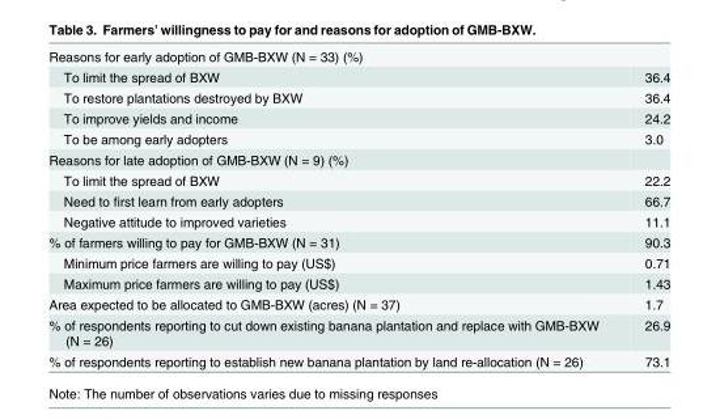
<table><tbody><tr><td colspan="2">Reasons for early adoption of GMB-BXW (N = 33) (%)</td></tr><tr><td>To limit the spread of BXW</td><td>36.4</td></tr><tr><td>To restore plantations destroyed by BXW</td><td>36.4</td></tr><tr><td>To improve yields and income</td><td>24.2</td></tr><tr><td>To be among early adopters</td><td>3.0</td></tr><tr><td colspan="2">Reasons for late adoption of GMB-BXW (N = 9) (%)</td></tr><tr><td>To limit the spread of BXW</td><td>22.2</td></tr><tr><td>Need to first learn from early adopters</td><td>66.7</td></tr><tr><td>Negative attitude to improved varieties</td><td>11.1</td></tr><tr><td>% of farmers willing to pay for GMB-BXW (N = 31)</td><td>90.3</td></tr><tr><td>Minimum price farmers are willing to pay (US$)</td><td>0.71</td></tr><tr><td>Maximum price farmers are willing to pay (US$)</td><td>1.43</td></tr><tr><td>Area expected to be allocated to GMB-BXW (acres) (N = 37)</td><td>1.7</td></tr><tr><td>% of respondents reporting to cut down existing banana plantation and replace with GMB-BXW (N = 26)</td><td>26.9</td></tr><tr><td>% of respondents reporting to establish new banana plantation by land re-allocation (N = 26)</td><td>73.1</td></tr></tbody></table>